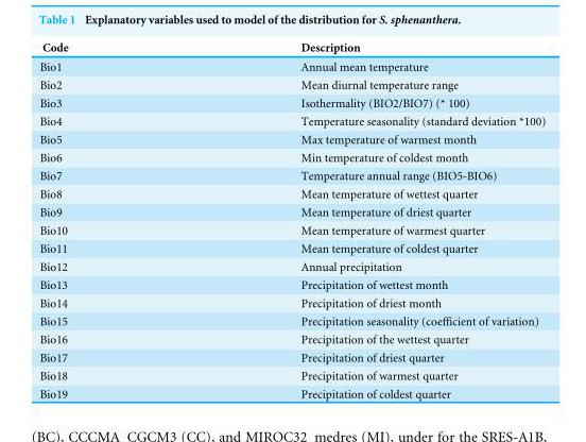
<table><thead><tr><td>Code</td><td>Description</td></tr></thead><tbody><tr><td>Bio1</td><td>Annual mean temperature</td></tr><tr><td>Bio2</td><td>Mean diurnal temperature range</td></tr><tr><td>Bio3</td><td>Isothermality (BIO2/BIO7) (* 100)</td></tr><tr><td>Bio4</td><td>Temperature seasonality (standard deviation *100)</td></tr><tr><td>Bio5</td><td>Max temperature of warmest month</td></tr><tr><td>Bio6</td><td>Min temperature of coldest month</td></tr><tr><td>Bio7</td><td>Temperature annual range (BIO5-BIO6)</td></tr><tr><td>Bio8</td><td>Mean temperature of wettest quarter</td></tr><tr><td>Bio9</td><td>Mean temperature of driest quarter</td></tr><tr><td>Bio10</td><td>Mean temperature of warmest quarter</td></tr><tr><td>Bio11</td><td>Mean temperature of coldest quarter</td></tr><tr><td>Bio12</td><td>Annual precipitation</td></tr><tr><td>Bio13</td><td>Precipitation of wettest month</td></tr><tr><td>Bio14</td><td>Precipitation of driest month</td></tr><tr><td>Bio15</td><td>Precipitation seasonality (coefficient of variation)</td></tr><tr><td>Bio16</td><td>Precipitation of the wettest quarter</td></tr><tr><td>Bio17</td><td>Precipitation of driest quarter</td></tr><tr><td>Bio18</td><td>Precipitation of warmest quarter</td></tr><tr><td>Bio19</td><td>Precipitation of coldest quarter</td></tr></tbody></table>